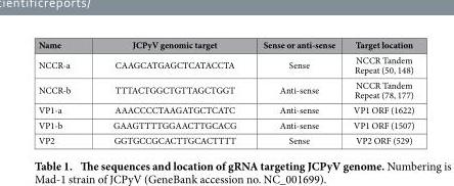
<table><thead><tr><td>Name</td><td>JCPyV genomic target</td><td>Sense or anti-sense</td><td>Target location</td></tr></thead><tbody><tr><td>NCCR-a</td><td>CAAGCATGAGCTCATACCTA</td><td>Sense</td><td>NCCR Tandem Repeat (50, 148)</td></tr><tr><td>NCCR-b</td><td>TTTACTGGCTGTTAGCTGGT</td><td>Anti-sense</td><td>NCCR Tandem Repeat (78, 177)</td></tr><tr><td>VP1-a</td><td>AAACCCCTAAGATGCTCATC</td><td>Anti-sense</td><td>VP1 ORF (1622)</td></tr><tr><td>VP1-b</td><td>GAAGTTTTGGAACTTGCACG</td><td>Anti-sense</td><td>VP1 ORF (1507)</td></tr><tr><td>VP2</td><td>GGTGCCGCACTTGCACTTTT</td><td>Sense</td><td>VP2 ORF (529)</td></tr></tbody></table>